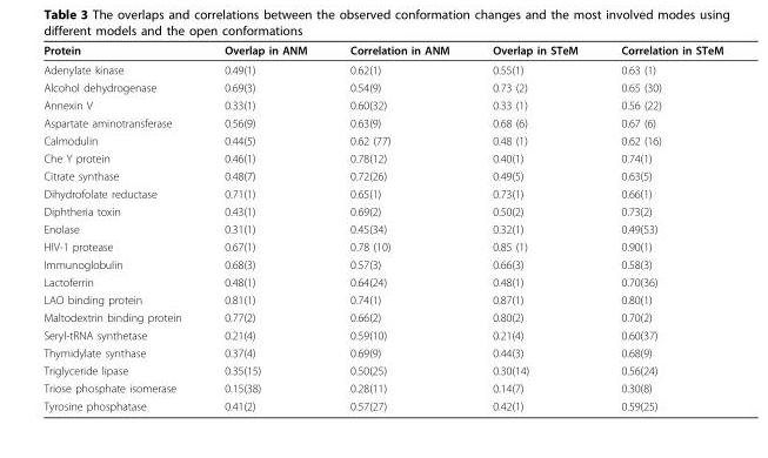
<table><thead><tr><td>Protein</td><td>Overlap in ANM</td><td>Correlation in ANM</td><td>Overlap in STeM</td><td>Correlation in STeM</td></tr></thead><tbody><tr><td>Adenylate kinase</td><td>0.49(1)</td><td>0.62(1)</td><td>0.55(1)</td><td>0.63 (1)</td></tr><tr><td>Alcohol dehydrogenase</td><td>0.69(3)</td><td>0.54(9)</td><td>0.73 (2)</td><td>0.65 (30)</td></tr><tr><td>Annexin V</td><td>0.33(1)</td><td>0.60(32)</td><td>0.33 (1)</td><td>0.56 (22)</td></tr><tr><td>Aspartate aminotransferase</td><td>0.56(9)</td><td>0.63(9)</td><td>0.68 (6)</td><td>0.67 (6)</td></tr><tr><td>Calmodulin</td><td>0.44(5)</td><td>0.62 (77)</td><td>0.48 (1)</td><td>0.62 (16)</td></tr><tr><td>Che Y protein</td><td>0.46(1)</td><td>0.78(12)</td><td>0.40(1)</td><td>0.74(1)</td></tr><tr><td>Citrate synthase</td><td>0.48(7)</td><td>0.72(26)</td><td>0.49(5)</td><td>0.63(5)</td></tr><tr><td>Dihydrofolate reductase</td><td>0.71(1)</td><td>0.65(1)</td><td>0.73(1)</td><td>0.66(1)</td></tr><tr><td>Diphtheria toxin</td><td>0.43(1)</td><td>0.69(2)</td><td>0.50(2)</td><td>0.73(2)</td></tr><tr><td>Enolase</td><td>0.31(1)</td><td>0.45(34)</td><td>0.32(1)</td><td>0.49(53)</td></tr><tr><td>HIV-1 protease</td><td>0.67(1)</td><td>0.78 (10)</td><td>0.85 (1)</td><td>0.90(1)</td></tr><tr><td>Immunoglobulin</td><td>0.68(3)</td><td>0.57(3)</td><td>0.66(3)</td><td>0.58(3)</td></tr><tr><td>Lactoferrin</td><td>0.48(1)</td><td>0.64(24)</td><td>0.48(1)</td><td>0.70(36)</td></tr><tr><td>LAO binding protein</td><td>0.81(1)</td><td>0.74(1)</td><td>0.87(1)</td><td>0.80(1)</td></tr><tr><td>Maltodextrin binding protein</td><td>0.77(2)</td><td>0.66(2)</td><td>0.80(2)</td><td>0.70(2)</td></tr><tr><td>Seryl-tRNA synthetase</td><td>0.21(4)</td><td>0.59(10)</td><td>0.21(4)</td><td>0.60(37)</td></tr><tr><td>Thymidylate synthase</td><td>0.37(4)</td><td>0.69(9)</td><td>0.44(3)</td><td>0.68(9)</td></tr><tr><td>Triglyceride lipase</td><td>0.35(15)</td><td>0.50(25)</td><td>0.30(14)</td><td>0.56(24)</td></tr><tr><td>Triose phosphate isomerase</td><td>0.15(38)</td><td>0.28(11)</td><td>0.14(7)</td><td>0.30(8)</td></tr><tr><td>Tyrosine phosphatase</td><td>0.41(2)</td><td>0.57(27)</td><td>0.42(1)</td><td>0.59(25)</td></tr></tbody></table>